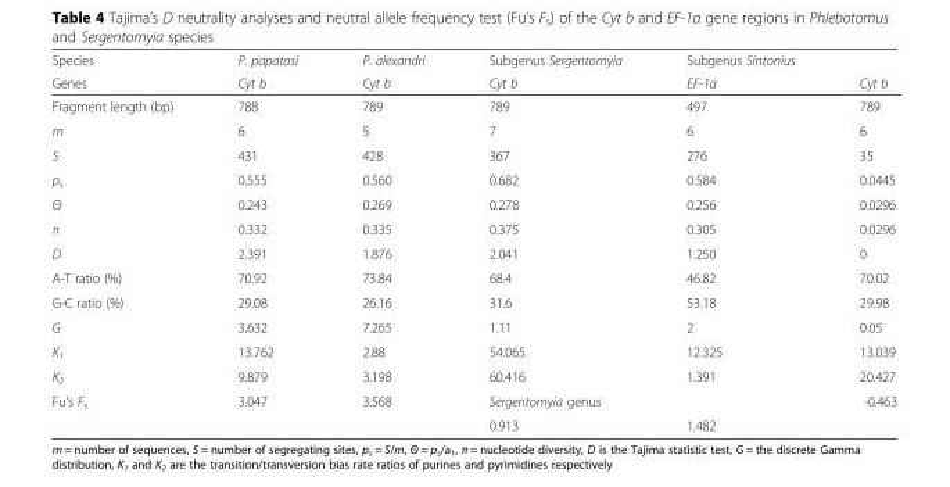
<table><thead><tr><td rowspan="2">Species Genes</td><td rowspan="2">P. papatasi Cyt b</td><td rowspan="2">P. alexandri Cyt b</td><td rowspan="2">Subgenus Sergentomyia Cyt b</td><td rowspan="2">Subgenus Sintonius EF-1α</td><td rowspan="2">Cyt b</td></tr><tr></tr></thead><tbody><tr><td>Fragment length (bp)</td><td>788</td><td>789</td><td>789</td><td>497</td><td>789</td></tr><tr><td>m</td><td>6</td><td>5</td><td>7</td><td>6</td><td>6</td></tr><tr><td>S</td><td>431</td><td>428</td><td>367</td><td>276</td><td>35</td></tr><tr><td>p<sub>s</sub></td><td>0.555</td><td>0.560</td><td>0.682</td><td>0.584</td><td>0.0445</td></tr><tr><td>Θ</td><td>0.243</td><td>0.269</td><td>0.278</td><td>0.256</td><td>0.0296</td></tr><tr><td>π</td><td>0.332</td><td>0.335</td><td>0.375</td><td>0.305</td><td>0.0296</td></tr><tr><td>D</td><td>2.391</td><td>1.876</td><td>2.041</td><td>1.250</td><td>0</td></tr><tr><td>A-T ratio (%)</td><td>70.92</td><td>73.84</td><td>68.4</td><td>46.82</td><td>70.02</td></tr><tr><td>G-C ratio (%)</td><td>29.08</td><td>26.16</td><td>31.6</td><td>53.18</td><td>29.98</td></tr><tr><td>G</td><td>3.632</td><td>7.265</td><td>1.11</td><td>2</td><td>0.05</td></tr><tr><td>K<sub>1</sub></td><td>13.762</td><td>2.88</td><td>54.065</td><td>12.325</td><td>13.039</td></tr><tr><td>K<sub>2</sub></td><td>9.879</td><td>3.198</td><td>60.416</td><td>1.391</td><td>20.427</td></tr><tr><td rowspan="2">Fu’s F<sub>s</sub></td><td>3.047</td><td>3.568</td><td>Sergentomyia genus</td><td></td><td>-0.463</td></tr><tr><td></td><td></td><td>0.913</td><td>1.482</td><td></td></tr></tbody></table>